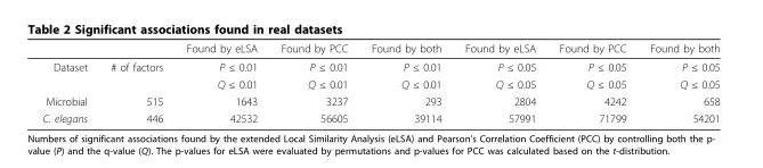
<table><thead><tr><td></td><td></td><td>Found by eLSA</td><td>Found by PCC</td><td>Found by both</td><td>Found by eLSA</td><td>Found by PCC</td><td>Found by both</td></tr></thead><tbody><tr><td rowspan="2">Dataset</td><td># of factors</td><td>P ≤ 0.01</td><td>P ≤ 0.01</td><td>P ≤ 0.01</td><td>P ≤ 0.05</td><td>P ≤ 0.05</td><td>P ≤ 0.05</td></tr><tr><td></td><td>Q ≤ 0.01</td><td>Q ≤ 0.01</td><td>Q ≤ 0.01</td><td>Q ≤ 0.05</td><td>Q ≤ 0.05</td><td>Q ≤ 0.05</td></tr><tr><td>Microbial</td><td>515</td><td>1643</td><td>3237</td><td>293</td><td>2804</td><td>4242</td><td>658</td></tr><tr><td>C. elegans</td><td>446</td><td>42532</td><td>56605</td><td>39114</td><td>57991</td><td>71799</td><td>54201</td></tr></tbody></table>